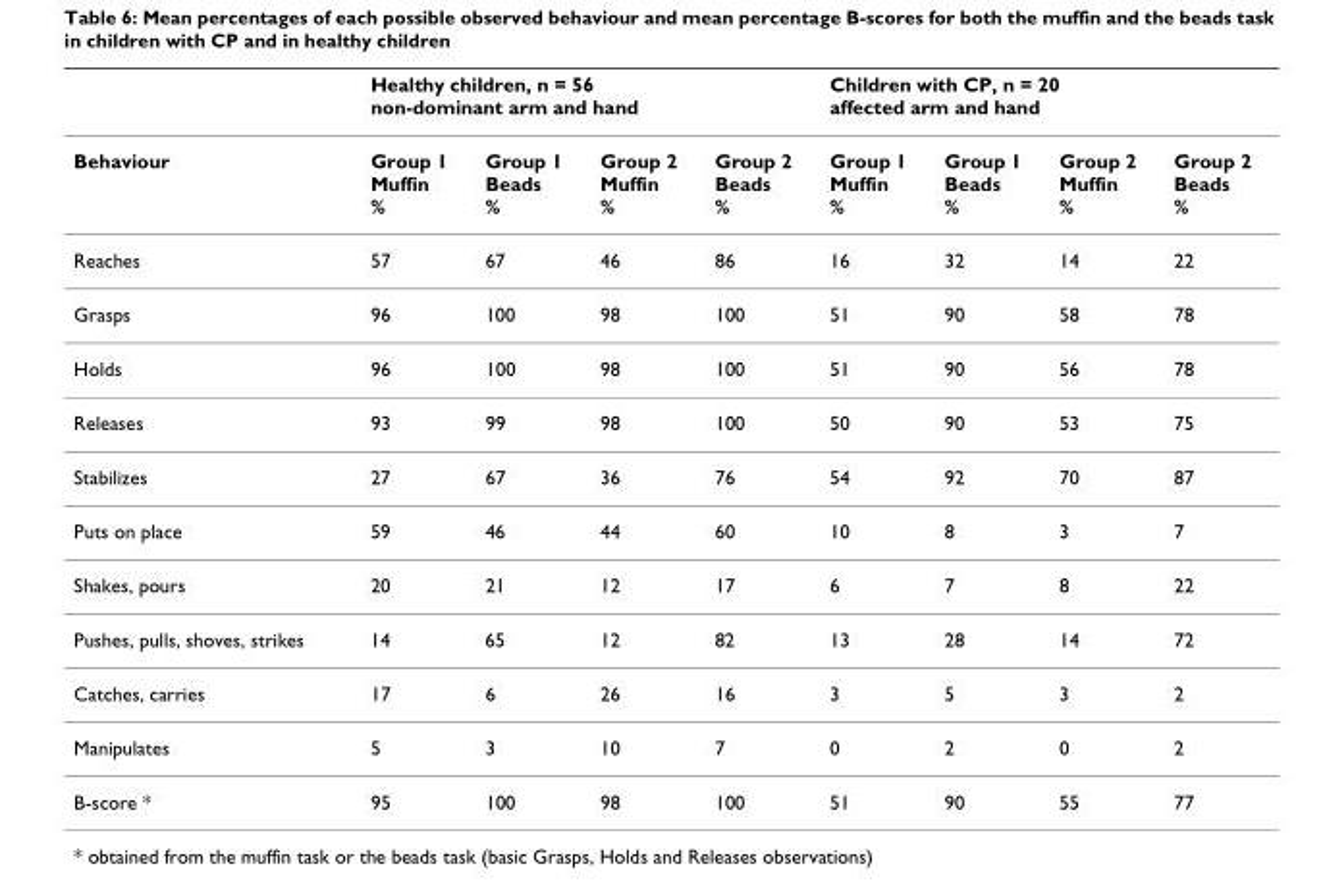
<table><thead><tr><td rowspan="2">Behaviour</td><td colspan="4">Healthy children, n = 56 non-dominant arm and hand</td><td colspan="4">Children with CP, n = 20 affected arm and hand</td></tr><tr><td>Group 1 Muffin %</td><td>Group 1 Beads %</td><td>Group 2 Muffin %</td><td>Group 2 Beads %</td><td>Group 1 Muffin %</td><td>Group 1 Beads %</td><td>Group 2 Muffin %</td><td>Group 2 Beads %</td></tr></thead><tbody><tr><td>Reaches</td><td>57</td><td>67</td><td>46</td><td>86</td><td>16</td><td>32</td><td>14</td><td>22</td></tr><tr><td>Grasps</td><td>96</td><td>100</td><td>98</td><td>100</td><td>51</td><td>90</td><td>58</td><td>78</td></tr><tr><td>Holds</td><td>96</td><td>100</td><td>98</td><td>100</td><td>51</td><td>90</td><td>56</td><td>78</td></tr><tr><td>Releases</td><td>93</td><td>99</td><td>98</td><td>100</td><td>50</td><td>90</td><td>53</td><td>75</td></tr><tr><td>Stabilizes</td><td>27</td><td>67</td><td>36</td><td>76</td><td>54</td><td>92</td><td>70</td><td>87</td></tr><tr><td>Puts on place</td><td>59</td><td>46</td><td>44</td><td>60</td><td>10</td><td>8</td><td>3</td><td>7</td></tr><tr><td>Shakes, pours</td><td>20</td><td>21</td><td>12</td><td>17</td><td>6</td><td>7</td><td>8</td><td>22</td></tr><tr><td>Pushes, pulls, shoves, strikes</td><td>14</td><td>65</td><td>12</td><td>82</td><td>13</td><td>28</td><td>14</td><td>72</td></tr><tr><td>Catches, carries</td><td>17</td><td>6</td><td>26</td><td>16</td><td>3</td><td>5</td><td>3</td><td>2</td></tr><tr><td>Manipulates</td><td>5</td><td>3</td><td>10</td><td>7</td><td>0</td><td>2</td><td>0</td><td>2</td></tr><tr><td>B-score *</td><td>95</td><td>100</td><td>98</td><td>100</td><td>51</td><td>90</td><td>55</td><td>77</td></tr></tbody></table>